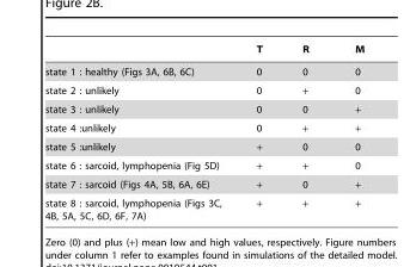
<table><thead><tr><td></td><td>T</td><td>R</td><td>M</td></tr></thead><tbody><tr><td>state 1 : healthy (Figs 3A, 6B, 6C)</td><td>0</td><td>0</td><td>0</td></tr><tr><td>state 2 : unlikely</td><td>0</td><td>+</td><td>0</td></tr><tr><td>state 3 : unlikely</td><td>0</td><td>0</td><td>+</td></tr><tr><td>state 4 :unlikely</td><td>0</td><td>+</td><td>+</td></tr><tr><td>state 5 :unlikely</td><td>+</td><td>0</td><td>0</td></tr><tr><td>state 6 : sarcoid, lymphopenia (Fig 5D)</td><td>+</td><td>+</td><td>0</td></tr><tr><td>state 7 : sarcoid (Figs 4A, 5B, 6A, 6E)</td><td>+</td><td>0</td><td>+</td></tr><tr><td>state 8 : sarcoid, lymphopenia (Figs 3C, 4B, 5A, 5C, 6D, 6F, 7A)</td><td>+</td><td>+</td><td>+</td></tr></tbody></table>